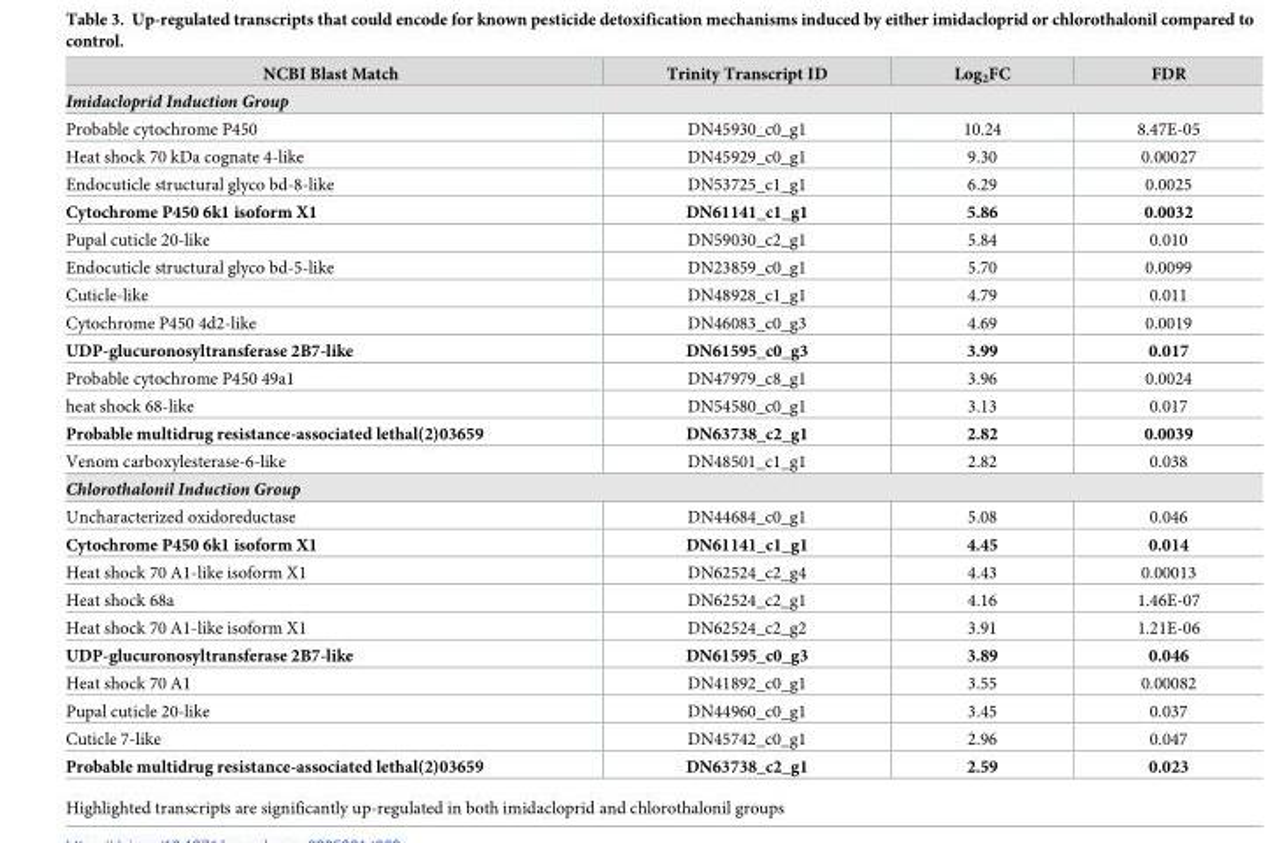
<table><thead><tr><td>NCBI Blast Match</td><td>Trinity Transcript ID</td><td>Log<sub>2</sub>FC</td><td>FDR</td></tr></thead><tbody><tr><td colspan="4">Imidacloprid Induction Group</td></tr><tr><td>Probable cytochrome P450</td><td>DN45930_c0_g1</td><td>10.24</td><td>8.47E-05</td></tr><tr><td>Heat shock 70 kDa cognate 4-like</td><td>DN45929_c0_g1</td><td>9.30</td><td>0.00027</td></tr><tr><td>Endocuticle structural glyco bd-8-like</td><td>DN53725_c1_g1</td><td>6.29</td><td>0.0025</td></tr><tr><td>Cytochrome P450 6k1 isoform X1</td><td>DN61141_c1_g1</td><td>5.86</td><td>0.0032</td></tr><tr><td>Pupal cuticle 20-like</td><td>DN59030_c2_g1</td><td>5.84</td><td>0.010</td></tr><tr><td>Endocuticle structural glyco bd-5-like</td><td>DN23859_c0_g1</td><td>5.70</td><td>0.0099</td></tr><tr><td>Cuticle-like</td><td>DN48928_c1_g1</td><td>4.79</td><td>0.011</td></tr><tr><td>Cytochrome P450 4d2-like</td><td>DN46083_c0_g3</td><td>4.69</td><td>0.0019</td></tr><tr><td>UDP-glucuronosyltransferase 2B7-like</td><td>DN61595_c0_g3</td><td>3.99</td><td>0.017</td></tr><tr><td>Probable cytochrome P450 49a1</td><td>DN47979_c8_g1</td><td>3.96</td><td>0.0024</td></tr><tr><td>heat shock 68-like</td><td>DN54580_c0_g1</td><td>3.13</td><td>0.017</td></tr><tr><td>Probable multidrug resistance-associated lethal(2)03659</td><td>DN63738_c2_g1</td><td>2.82</td><td>0.0039</td></tr><tr><td>Venom carboxylesterase-6-like</td><td>DN48501_c1_g1</td><td>2.82</td><td>0.038</td></tr><tr><td colspan="4">Chlorothalonil Induction Group</td></tr><tr><td>Uncharacterized oxidoreductase</td><td>DN44684_c0_g1</td><td>5.08</td><td>0.046</td></tr><tr><td>Cytochrome P450 6k1 isoform X1</td><td>DN61141_c1_g1</td><td>4.45</td><td>0.014</td></tr><tr><td>Heat shock 70 A1-like isoform X1</td><td>DN62524_c2_g4</td><td>4.43</td><td>0.00013</td></tr><tr><td>Heat shock 68a</td><td>DN62524_c2_g1</td><td>4.16</td><td>1.46E-07</td></tr><tr><td>Heat shock 70 A1-like isoform X1</td><td>DN62524_c2_g2</td><td>3.91</td><td>1.21E-06</td></tr><tr><td>UDP-glucuronosyltransferase 2B7-like</td><td>DN61595_c0_g3</td><td>3.89</td><td>0.046</td></tr><tr><td>Heat shock 70 A1</td><td>DN41892_c0_g1</td><td>3.55</td><td>0.00082</td></tr><tr><td>Pupal cuticle 20-like</td><td>DN44960_c0_g1</td><td>3.45</td><td>0.037</td></tr><tr><td>Cuticle 7-like</td><td>DN45742_c0_g1</td><td>2.96</td><td>0.047</td></tr><tr><td>Probable multidrug resistance-associated lethal(2)03659</td><td>DN63738_c2_g1</td><td>2.59</td><td>0.023</td></tr></tbody></table>